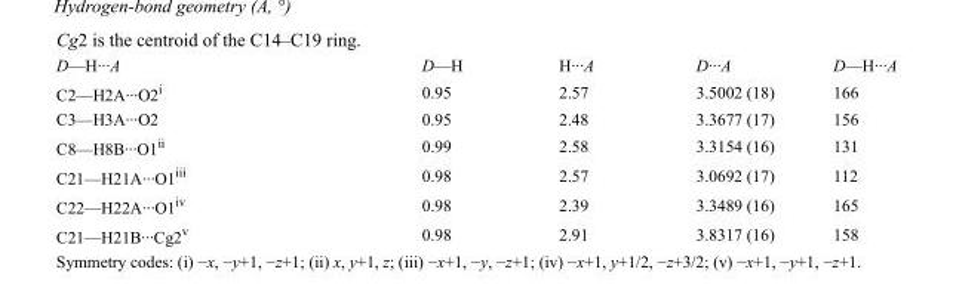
<table><tbody><tr><td>D—H···A</td><td>D—H</td><td>H···A</td><td>D···A</td><td>D—H···A</td></tr><tr><td>C2—H2A···O2<sup>i</sup></td><td>0.95</td><td>2.57</td><td>3.5002 (18)</td><td>166</td></tr><tr><td>C3—H3A···O2</td><td>0.95</td><td>2.48</td><td>3.3677 (17)</td><td>156</td></tr><tr><td>C8—H8B···O1<sup>ii</sup></td><td>0.99</td><td>2.58</td><td>3.3154 (16)</td><td>131</td></tr><tr><td>C21—H21A···O1<sup>iii</sup></td><td>0.98</td><td>2.57</td><td>3.0692 (17)</td><td>112</td></tr><tr><td>C22—H22A···O1<sup>iv</sup></td><td>0.98</td><td>2.39</td><td>3.3489 (16)</td><td>165</td></tr><tr><td>C21—H21B···Cg2<sup>v</sup></td><td>0.98</td><td>2.91</td><td>3.8317 (16)</td><td>158</td></tr></tbody></table>